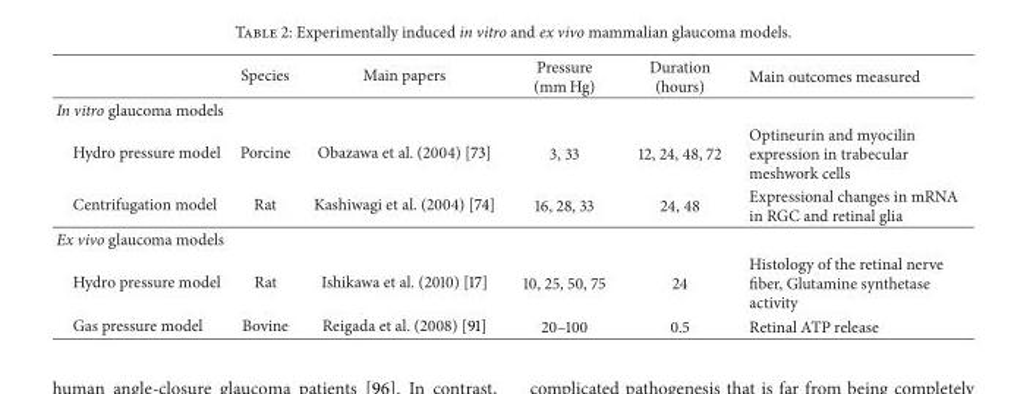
<table><thead><tr><td></td><td>Species</td><td>Main papers</td><td>Pressure (mm Hg)</td><td>Duration (hours)</td><td>Main outcomes measured</td></tr></thead><tbody><tr><td colspan="6">In vitro glaucoma models</td></tr><tr><td>Hydro pressure model</td><td>Porcine</td><td>Obazawa et al. (2004) [73]</td><td>3, 33</td><td>12, 24, 48, 72</td><td>Optineurin and myocilin expression in trabecular meshwork cells</td></tr><tr><td>Centrifugation model</td><td>Rat</td><td>Kashiwagi et al. (2004) [74]</td><td>16, 28, 33</td><td>24, 48</td><td>Expressional changes in mRNA in RGC and retinal glia</td></tr><tr><td colspan="6">Ex vivo glaucoma models</td></tr><tr><td>Hydro pressure model</td><td>Rat</td><td>Ishikawa et al. (2010) [17]</td><td>10, 25, 50, 75</td><td>24</td><td>Histology of the retinal nerve fiber, Glutamine synthetase activity</td></tr><tr><td>Gas pressure model</td><td>Bovine</td><td>Reigada et al. (2008) [91]</td><td>20–100</td><td>0.5</td><td>Retinal ATP release</td></tr></tbody></table>